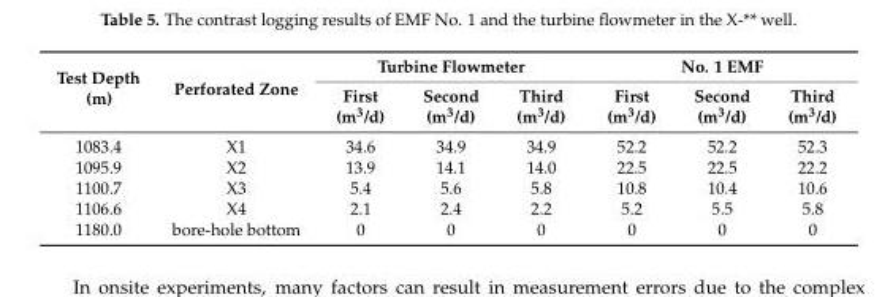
<table><thead><tr><td rowspan="2">Test Depth (m)</td><td rowspan="2">Perforated Zone</td><td colspan="3">Turbine Flowmeter</td><td colspan="3">No. 1 EMF</td></tr><tr><td>First (m<sup>3</sup>/d)</td><td>Second (m<sup>3</sup>/d)</td><td>Third (m<sup>3</sup>/d)</td><td>First (m<sup>3</sup>/d)</td><td>Second (m<sup>3</sup>/d)</td><td>Third (m<sup>3</sup>/d)</td></tr></thead><tbody><tr><td>1083.4</td><td>X1</td><td>34.6</td><td>34.9</td><td>34.9</td><td>52.2</td><td>52.2</td><td>52.3</td></tr><tr><td>1095.9</td><td>X2</td><td>13.9</td><td>14.1</td><td>14.0</td><td>22.5</td><td>22.5</td><td>22.2</td></tr><tr><td>1100.7</td><td>X3</td><td>5.4</td><td>5.6</td><td>5.8</td><td>10.8</td><td>10.4</td><td>10.6</td></tr><tr><td>1106.6</td><td>X4</td><td>2.1</td><td>2.4</td><td>2.2</td><td>5.2</td><td>5.5</td><td>5.8</td></tr><tr><td>1180.0</td><td>bore-hole bottom</td><td>0</td><td>0</td><td>0</td><td>0</td><td>0</td><td>0</td></tr></tbody></table>